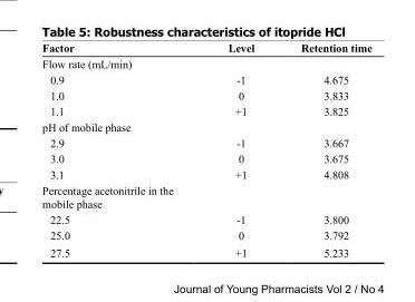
<table><thead><tr><td>Factor</td><td>Level</td><td>Retention time</td></tr></thead><tbody><tr><td colspan="3">Flow rate (mL/min)</td></tr><tr><td>0.9</td><td>-1</td><td>4.675</td></tr><tr><td>1.0</td><td>0</td><td>3.833</td></tr><tr><td>1.1</td><td>+1</td><td>3.825</td></tr><tr><td colspan="3">pH of mobile phase</td></tr><tr><td>2.9</td><td>-1</td><td>3.667</td></tr><tr><td>3.0</td><td>0</td><td>3.675</td></tr><tr><td>3.1</td><td>+1</td><td>4.808</td></tr><tr><td colspan="3">Percentage acetonitrile in the mobile phase</td></tr><tr><td>22.5</td><td>-1</td><td>3.800</td></tr><tr><td>25.0</td><td>0</td><td>3.792</td></tr><tr><td>27.5</td><td>+1</td><td>5.233</td></tr></tbody></table>